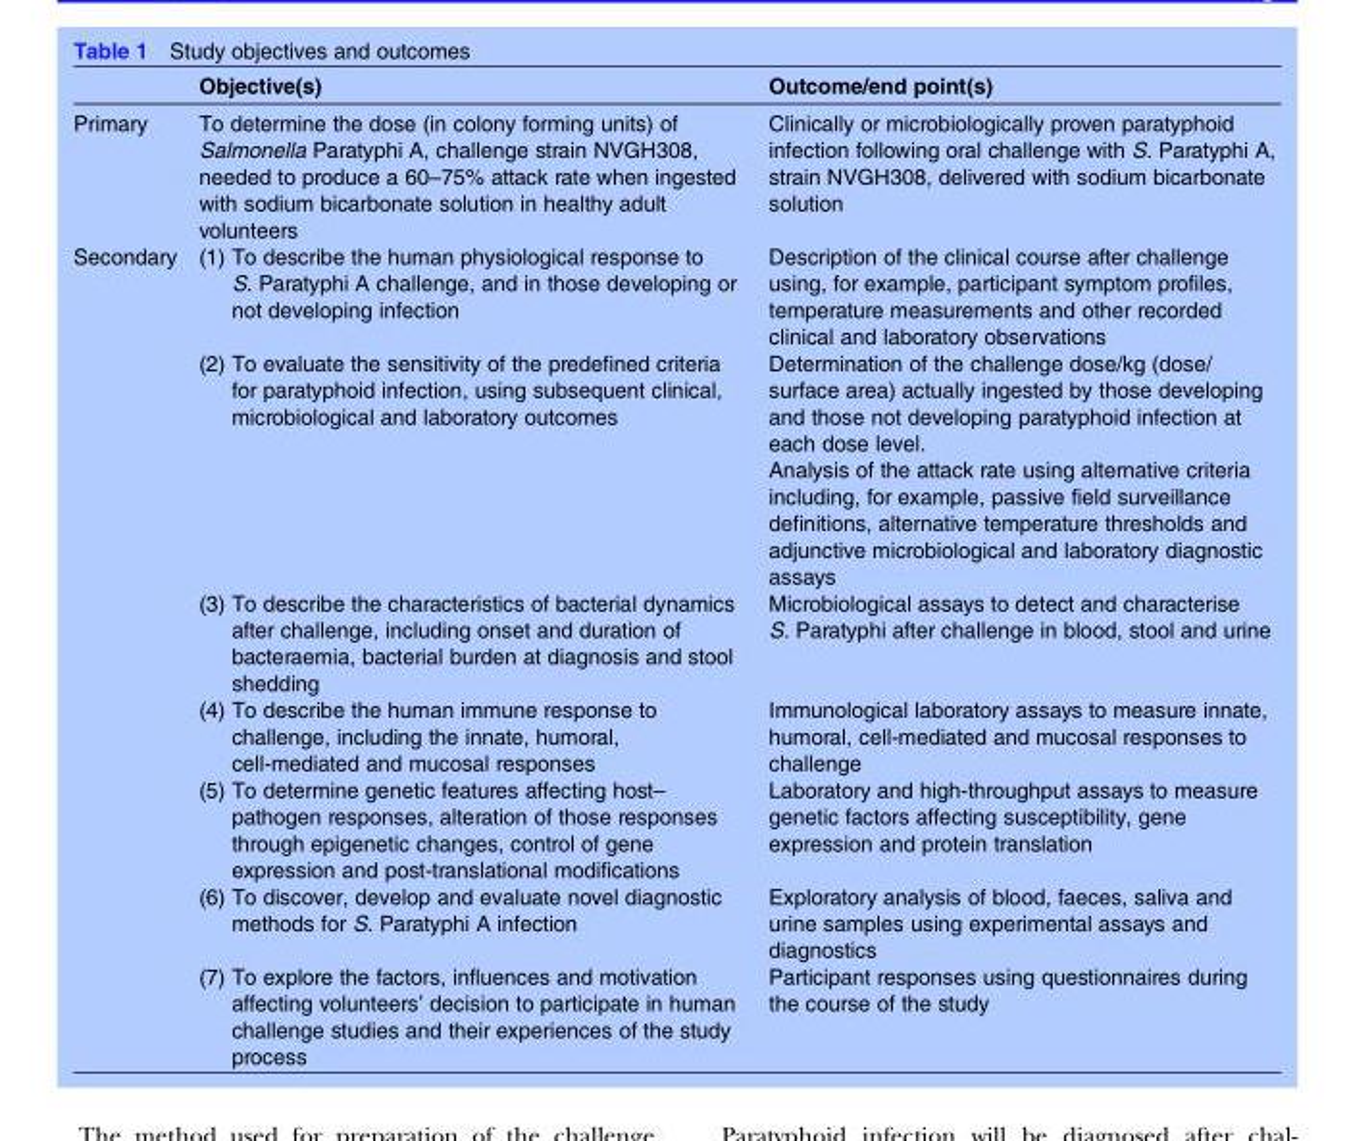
<table><thead><tr><td></td><td>Objective(s)</td><td>Outcome/end point(s)</td></tr></thead><tbody><tr><td>Primary</td><td>To determine the dose (in colony forming units) of Salmonella Paratyphi A, challenge strain NVGH308, needed to produce a 60–75% attack rate when ingested with sodium bicarbonate solution in healthy adult volunteers</td><td>Clinically or microbiologically proven paratyphoid infection following oral challenge with S. Paratyphi A, strain NVGH308, delivered with sodium bicarbonate solution</td></tr><tr><td rowspan="7">Secondary</td><td>(1) To describe the human physiological response to S. Paratyphi A challenge, and in those developing or not developing infection</td><td>Description of the clinical course after challenge using, for example, participant symptom profiles, temperature measurements and other recorded clinical and laboratory observations</td></tr><tr><td>(2) To evaluate the sensitivity of the predefined criteria for paratyphoid infection, using subsequent clinical, microbiological and laboratory outcomes</td><td>Determination of the challenge dose/kg (dose/ surface area) actually ingested by those developing and those not developing paratyphoid infection at each dose level. Analysis of the attack rate using alternative criteria including, for example, passive field surveillance definitions, alternative temperature thresholds and adjunctive microbiological and laboratory diagnostic assays</td></tr><tr><td>(3) To describe the characteristics of bacterial dynamics after challenge, including onset and duration of bacteraemia, bacterial burden at diagnosis and stool shedding</td><td>Microbiological assays to detect and characterise S. Paratyphi after challenge in blood, stool and urine</td></tr><tr><td>(4) To describe the human immune response to challenge, including the innate, humoral, cell-mediated and mucosal responses</td><td>Immunological laboratory assays to measure innate, humoral, cell-mediated and mucosal responses to challenge</td></tr><tr><td>(5) To determine genetic features affecting host– pathogen responses, alteration of those responses through epigenetic changes, control of gene expression and post-translational modifications</td><td>Laboratory and high-throughput assays to measure genetic factors affecting susceptibility, gene expression and protein translation</td></tr><tr><td>(6) To discover, develop and evaluate novel diagnostic methods for S. Paratyphi A infection</td><td>Exploratory analysis of blood, faeces, saliva and urine samples using experimental assays and diagnostics</td></tr><tr><td>(7) To explore the factors, influences and motivation affecting volunteers’ decision to participate in human challenge studies and their experiences of the study process</td><td>Participant responses using questionnaires during the course of the study</td></tr></tbody></table>